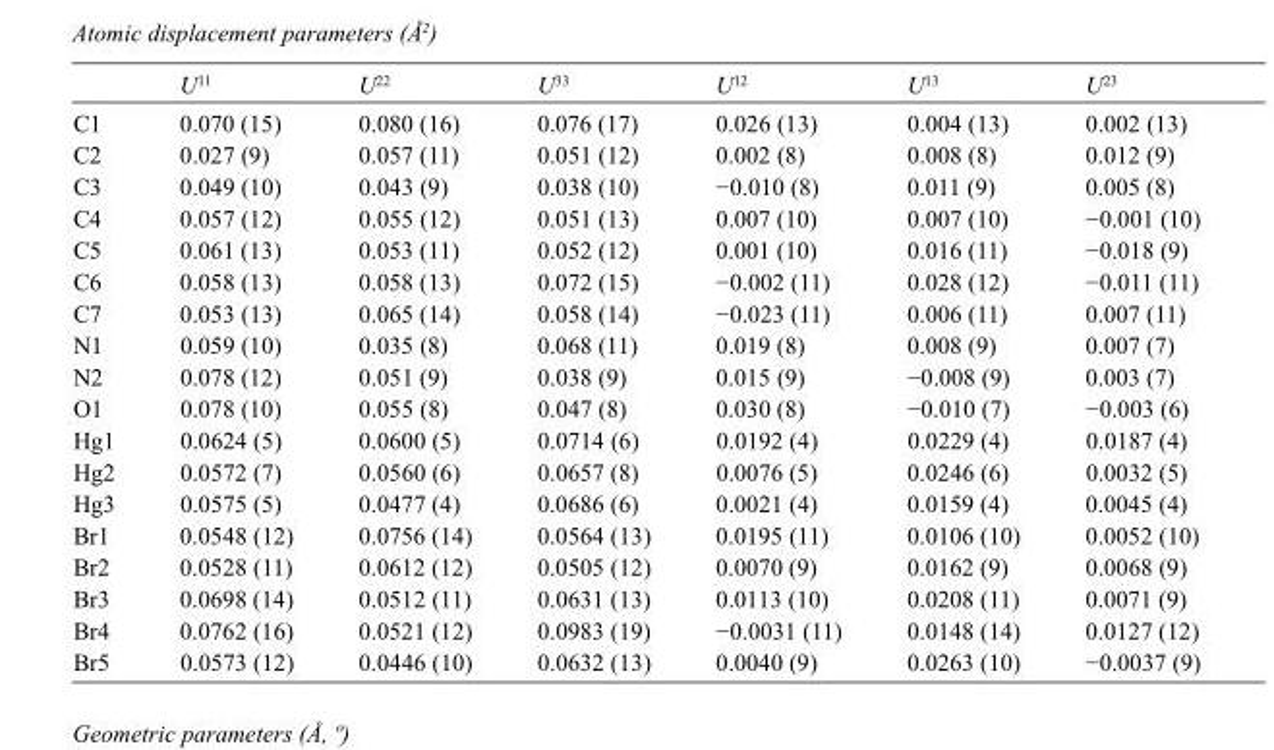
<table><thead><tr><td></td><td>U<sup>11</sup></td><td>U<sup>22</sup></td><td>U<sup>33</sup></td><td>U<sup>12</sup></td><td>U<sup>13</sup></td><td>U<sup>23</sup></td></tr></thead><tbody><tr><td>C1</td><td>0.070 (15)</td><td>0.080 (16)</td><td>0.076 (17)</td><td>0.026 (13)</td><td>0.004 (13)</td><td>0.002 (13)</td></tr><tr><td>C2</td><td>0.027 (9)</td><td>0.057 (11)</td><td>0.051 (12)</td><td>0.002 (8)</td><td>0.008 (8)</td><td>0.012 (9)</td></tr><tr><td>C3</td><td>0.049 (10)</td><td>0.043 (9)</td><td>0.038 (10)</td><td>−0.010 (8)</td><td>0.011 (9)</td><td>0.005 (8)</td></tr><tr><td>C4</td><td>0.057 (12)</td><td>0.055 (12)</td><td>0.051 (13)</td><td>0.007 (10)</td><td>0.007 (10)</td><td>−0.001 (10)</td></tr><tr><td>C5</td><td>0.061 (13)</td><td>0.053 (11)</td><td>0.052 (12)</td><td>0.001 (10)</td><td>0.016 (11)</td><td>−0.018 (9)</td></tr><tr><td>C6</td><td>0.058 (13)</td><td>0.058 (13)</td><td>0.072 (15)</td><td>−0.002 (11)</td><td>0.028 (12)</td><td>−0.011 (11)</td></tr><tr><td>C7</td><td>0.053 (13)</td><td>0.065 (14)</td><td>0.058 (14)</td><td>−0.023 (11)</td><td>0.006 (11)</td><td>0.007 (11)</td></tr><tr><td>N1</td><td>0.059 (10)</td><td>0.035 (8)</td><td>0.068 (11)</td><td>0.019 (8)</td><td>0.008 (9)</td><td>0.007 (7)</td></tr><tr><td>N2</td><td>0.078 (12)</td><td>0.051 (9)</td><td>0.038 (9)</td><td>0.015 (9)</td><td>−0.008 (9)</td><td>0.003 (7)</td></tr><tr><td>O1</td><td>0.078 (10)</td><td>0.055 (8)</td><td>0.047 (8)</td><td>0.030 (8)</td><td>−0.010 (7)</td><td>−0.003 (6)</td></tr><tr><td>Hg1</td><td>0.0624 (5)</td><td>0.0600 (5)</td><td>0.0714 (6)</td><td>0.0192 (4)</td><td>0.0229 (4)</td><td>0.0187 (4)</td></tr><tr><td>Hg2</td><td>0.0572 (7)</td><td>0.0560 (6)</td><td>0.0657 (8)</td><td>0.0076 (5)</td><td>0.0246 (6)</td><td>0.0032 (5)</td></tr><tr><td>Hg3</td><td>0.0575 (5)</td><td>0.0477 (4)</td><td>0.0686 (6)</td><td>0.0021 (4)</td><td>0.0159 (4)</td><td>0.0045 (4)</td></tr><tr><td>Br1</td><td>0.0548 (12)</td><td>0.0756 (14)</td><td>0.0564 (13)</td><td>0.0195 (11)</td><td>0.0106 (10)</td><td>0.0052 (10)</td></tr><tr><td>Br2</td><td>0.0528 (11)</td><td>0.0612 (12)</td><td>0.0505 (12)</td><td>0.0070 (9)</td><td>0.0162 (9)</td><td>0.0068 (9)</td></tr><tr><td>Br3</td><td>0.0698 (14)</td><td>0.0512 (11)</td><td>0.0631 (13)</td><td>0.0113 (10)</td><td>0.0208 (11)</td><td>0.0071 (9)</td></tr><tr><td>Br4</td><td>0.0762 (16)</td><td>0.0521 (12)</td><td>0.0983 (19)</td><td>−0.0031 (11)</td><td>0.0148 (14)</td><td>0.0127 (12)</td></tr><tr><td>Br5</td><td>0.0573 (12)</td><td>0.0446 (10)</td><td>0.0632 (13)</td><td>0.0040 (9)</td><td>0.0263 (10)</td><td>−0.0037 (9)</td></tr></tbody></table>